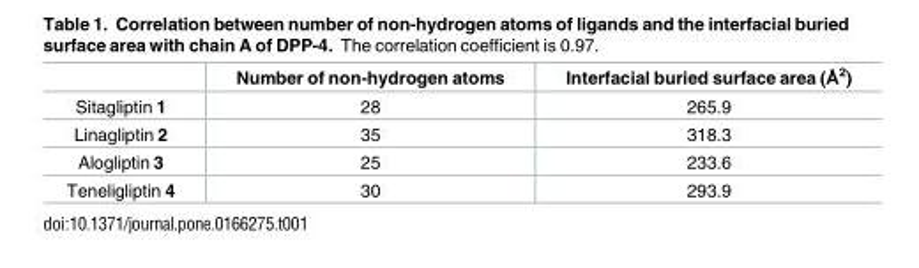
<table><thead><tr><td></td><td>Number of non-hydrogen atoms</td><td>Interfacial buried surface area (Å<sup>2</sup>)</td></tr></thead><tbody><tr><td>Sitagliptin 1</td><td>28</td><td>265.9</td></tr><tr><td>Linagliptin 2</td><td>35</td><td>318.3</td></tr><tr><td>Alogliptin 3</td><td>25</td><td>233.6</td></tr><tr><td>Teneligliptin 4</td><td>30</td><td>293.9</td></tr></tbody></table>